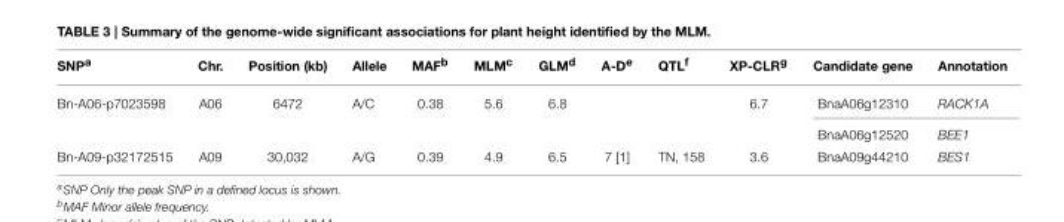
<table><thead><tr><td>SNP<sup>a</sup></td><td>Chr.</td><td>Position (kb)</td><td>Allele</td><td>MAF<sup>b</sup></td><td>MLM<sup>c</sup></td><td>GLM<sup>d</sup></td><td>A-D<sup>e</sup></td><td>QTL<sup>f</sup></td><td>XP-CLR<sup>g</sup></td><td>Candidate gene</td><td>Annotation</td></tr></thead><tbody><tr><td>Bn-A06-p7023598</td><td>A06</td><td>6472</td><td>A/C</td><td>0.38</td><td>5.6</td><td>6.8</td><td></td><td></td><td>6.7</td><td>BnaA06g12310</td><td>RACK1A</td></tr><tr><td colspan="10"></td><td>BnaA06g12520</td><td>BEE1</td></tr><tr><td>Bn-A09-p32172515</td><td>A09</td><td>30,032</td><td>A/G</td><td>0.39</td><td>4.9</td><td>6.5</td><td>7 [1]</td><td>TN, 158</td><td>3.6</td><td>BnaA09g44210</td><td>BES1</td></tr></tbody></table>